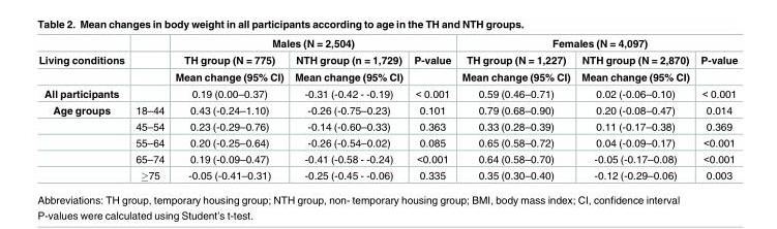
<table><thead><tr><td rowspan="3">Living conditions</td><td rowspan="3"></td><td colspan="3">Males (N = 2,504)</td><td colspan="3">Females (N = 4,097)</td></tr><tr><td rowspan="2">TH group (N = 775) Mean change (95% CI)</td><td rowspan="2">NTH group (n = 1,729) Mean change (95% CI)</td><td rowspan="2">P-value</td><td rowspan="2">TH group (N = 1,227) Mean change (95% CI)</td><td rowspan="2">NTH group (N = 2,870) Mean change (95% CI)</td><td rowspan="2">P-value</td></tr><tr></tr></thead><tbody><tr><td>All participants</td><td></td><td>0.19 (0.00–0.37)</td><td>-0.31 (-0.42 - -0.19)</td><td>&lt; 0.001</td><td>0.59 (0.46–0.71)</td><td>0.02 (-0.06–0.10)</td><td>&lt; 0.001</td></tr><tr><td rowspan="5">Age groups</td><td>18–44</td><td>0.43 (-0.24–1.10)</td><td>-0.26 (-0.75–0.23)</td><td>0.101</td><td>0.79 (0.68–0.90)</td><td>0.20 (-0.08–0.47)</td><td>0.014</td></tr><tr><td>45–54</td><td>0.23 (-0.29–0.76)</td><td>-0.14 (-0.60–0.33)</td><td>0.363</td><td>0.33 (0.28–0.39)</td><td>0.11 (-0.17–0.38)</td><td>0.369</td></tr><tr><td>55–64</td><td>0.20 (-0.25–0.64)</td><td>-0.26 (-0.54–0.02)</td><td>0.085</td><td>0.65 (0.58–0.72)</td><td>0.04 (-0.09–0.17)</td><td>&lt;0.001</td></tr><tr><td>65–74</td><td>0.19 (-0.09–0.47)</td><td>-0.41 (-0.58 - -0.24)</td><td>&lt;0.001</td><td>0.64 (0.58–0.70)</td><td>-0.05 (-0.17–0.08)</td><td>&lt;0.001</td></tr><tr><td>≥75</td><td>-0.05 (-0.41–0.31)</td><td>-0.25 (-0.45 - -0.06)</td><td>0.335</td><td>0.35 (0.30–0.40)</td><td>-0.12 (-0.29–0.06)</td><td>0.003</td></tr></tbody></table>